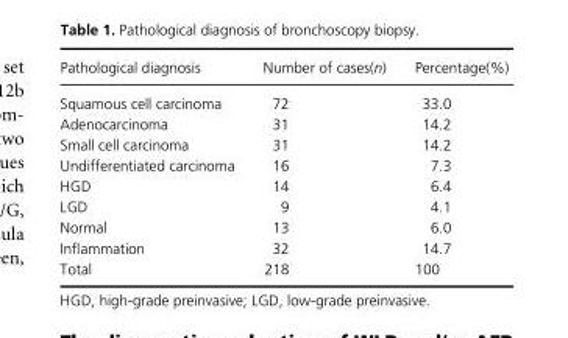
<table><thead><tr><td>Pathological diagnosis</td><td>Number of cases(n)</td><td>Percentage(%)</td></tr></thead><tbody><tr><td>Squamous cell carcinoma</td><td>72</td><td>33.0</td></tr><tr><td>Adenocarcinoma</td><td>31</td><td>14.2</td></tr><tr><td>Small cell carcinoma</td><td>31</td><td>14.2</td></tr><tr><td>Undifferentiated carcinoma</td><td>16</td><td>7.3</td></tr><tr><td>HGD</td><td>14</td><td>6.4</td></tr><tr><td>LGD</td><td>9</td><td>4.1</td></tr><tr><td>Normal</td><td>13</td><td>6.0</td></tr><tr><td>Inflammation</td><td>32</td><td>14.7</td></tr><tr><td>Total</td><td>218</td><td>100</td></tr></tbody></table>